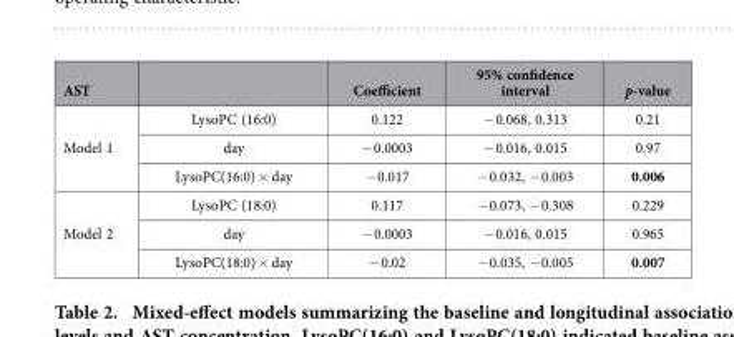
<table><thead><tr><td>AST</td><td></td><td>Coefficient</td><td>95% confidence interval</td><td>p-value</td></tr></thead><tbody><tr><td rowspan="3">Model 1</td><td>LysoPC (16:0)</td><td>0.122</td><td>− 0.068, 0.313</td><td>0.21</td></tr><tr><td>day</td><td>− 0.0003</td><td>− 0.016, 0.015</td><td>0.97</td></tr><tr><td>LysoPC(16:0) × day</td><td>− 0.017</td><td>− 0.032, − 0.003</td><td>0.006</td></tr><tr><td rowspan="3">Model 2</td><td>LysoPC (18:0)</td><td>0.117</td><td>− 0.073, − 0.308</td><td>0.229</td></tr><tr><td>day</td><td>− 0.0003</td><td>− 0.016, 0.015</td><td>0.965</td></tr><tr><td>LysoPC(18:0) × day</td><td>− 0.02</td><td>− 0.035, − 0.005</td><td>0.007</td></tr></tbody></table>